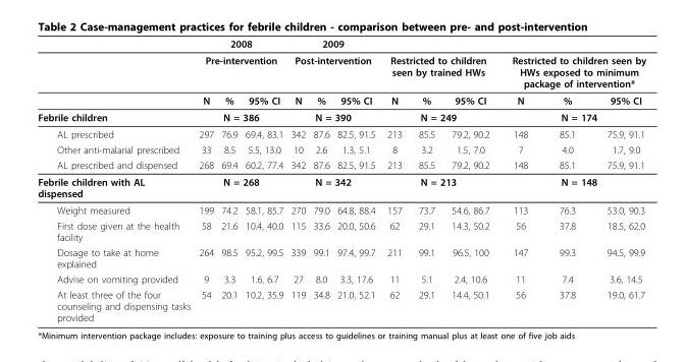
<table><thead><tr><td rowspan="3"></td><td rowspan="2" colspan="3">2008 Pre-intervention</td><td rowspan="2" colspan="3">2009 Post-intervention</td><td></td><td></td><td></td><td></td><td></td><td></td></tr><tr><td colspan="3">Restricted to children seen by trained HWs</td><td colspan="3">Restricted to children seen by HWs exposed to minimum package of intervention*</td></tr><tr><td>N</td><td>%</td><td>95% CI</td><td>N</td><td>%</td><td>95% CI</td><td>N</td><td>%</td><td>95% CI</td><td>N</td><td>%</td><td>95% CI</td></tr></thead><tbody><tr><td>Febrile children</td><td colspan="3">N = 386</td><td colspan="3">N = 390</td><td colspan="3">N = 249</td><td colspan="3">N = 174</td></tr><tr><td>AL prescribed</td><td>297</td><td>76.9</td><td>69.4, 83.1</td><td>342</td><td>87.6</td><td>82.5, 91.5</td><td>213</td><td>85.5</td><td>79.2, 90.2</td><td>148</td><td>85.1</td><td>75.9, 91.1</td></tr><tr><td>Other anti-malarial prescribed</td><td>33</td><td>8.5</td><td>5.5, 13.0</td><td>10</td><td>2.6</td><td>1.3, 5.1</td><td>8</td><td>3.2</td><td>1.5, 7.0</td><td>7</td><td>4.0</td><td>1.7, 9.0</td></tr><tr><td>AL prescribed and dispensed</td><td>268</td><td>69.4</td><td>60.2, 77.4</td><td>342</td><td>87.6</td><td>82.5, 91.5</td><td>213</td><td>85.5</td><td>79.2, 90.2</td><td>148</td><td>85.1</td><td>75.9, 91.1</td></tr><tr><td>Febrile children with AL dispensed</td><td colspan="3">N = 268</td><td colspan="3">N = 342</td><td colspan="3">N = 213</td><td colspan="3">N = 148</td></tr><tr><td>Weight measured</td><td>199</td><td>74.2</td><td>58.1, 85.7</td><td>270</td><td>79.0</td><td>64.8, 88.4</td><td>157</td><td>73.7</td><td>54.6, 86.7</td><td>113</td><td>76.3</td><td>53.0, 90.3</td></tr><tr><td>First dose given at the health facility</td><td>58</td><td>21.6</td><td>10.4, 40.0</td><td>115</td><td>33.6</td><td>20.0, 50.6</td><td>62</td><td>29.1</td><td>14.3, 50.2</td><td>56</td><td>37.8</td><td>18.5, 62.0</td></tr><tr><td>Dosage to take at home explained</td><td>264</td><td>98.5</td><td>95.2, 99.5</td><td>339</td><td>99.1</td><td>97.4, 99.7</td><td>211</td><td>99.1</td><td>96.5, 100</td><td>147</td><td>99.3</td><td>94.5, 99.9</td></tr><tr><td>Advise on vomiting provided</td><td>9</td><td>3.3</td><td>1.6, 6.7</td><td>27</td><td>8.0</td><td>3.3, 17.6</td><td>11</td><td>5.1</td><td>2.4, 10.6</td><td>11</td><td>7.4</td><td>3.6, 14.5</td></tr><tr><td>At least three of the four counseling and dispensing tasks provided</td><td>54</td><td>20.1</td><td>10.2, 35.9</td><td>119</td><td>34.8</td><td>21.0, 52.1</td><td>62</td><td>29.1</td><td>14.4, 50.1</td><td>56</td><td>37.8</td><td>19.0, 61.7</td></tr></tbody></table>